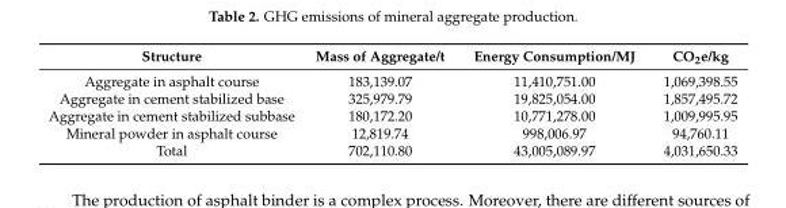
<table><thead><tr><td>Structure</td><td>Mass of Aggregate/t</td><td>Energy Consumption/MJ</td><td>CO<sub>2</sub>e/kg</td></tr></thead><tbody><tr><td>Aggregate in asphalt course</td><td>183,139.07</td><td>11,410,751.00</td><td>1,069,398.55</td></tr><tr><td>Aggregate in cement stabilized base</td><td>325,979.79</td><td>19,825,054.00</td><td>1,857,495.72</td></tr><tr><td>Aggregate in cement stabilized subbase</td><td>180,172.20</td><td>10,771,278.00</td><td>1,009,995.95</td></tr><tr><td>Mineral powder in asphalt course</td><td>12,819.74</td><td>998,006.97</td><td>94,760.11</td></tr><tr><td>Total</td><td>702,110.80</td><td>43,005,089.97</td><td>4,031,650.33</td></tr></tbody></table>